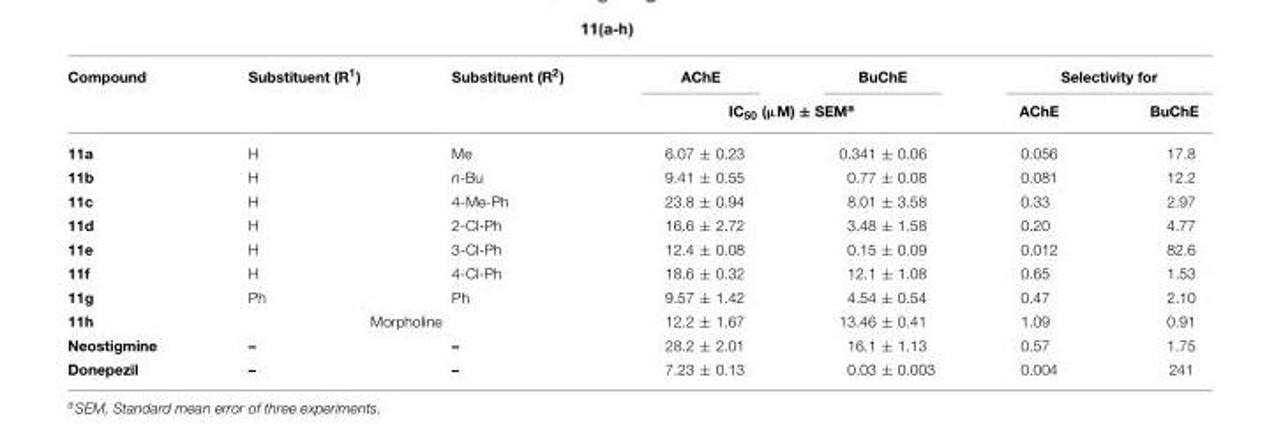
<table><thead><tr><td rowspan="2">Compound</td><td rowspan="2">Substituent (R<sup>1</sup>)</td><td rowspan="2">Substituent (R<sup>2</sup>)</td><td>AChE</td><td>BuChE</td><td colspan="2">Selectivity for</td></tr><tr><td colspan="2">IC<sub>50</sub> (µM) ± SEM<sup>a</sup></td><td>AChE</td><td>BuChE</td></tr></thead><tbody><tr><td>11a</td><td>H</td><td>Me</td><td>6.07 ± 0.23</td><td>0.341 ± 0.06</td><td>0.056</td><td>17.8</td></tr><tr><td>11b</td><td>H</td><td>n-Bu</td><td>9.41 ± 0.55</td><td>0.77 ± 0.08</td><td>0.081</td><td>12.2</td></tr><tr><td>11c</td><td>H</td><td>4-Me-Ph</td><td>23.8 ± 0.94</td><td>8.01 ± 3.58</td><td>0.33</td><td>2.97</td></tr><tr><td>11d</td><td>H</td><td>2-Cl-Ph</td><td>16.6 ± 2.72</td><td>3.48 ± 1.58</td><td>0.20</td><td>4.77</td></tr><tr><td>11e</td><td>H</td><td>3-Cl-Ph</td><td>12.4 ± 0.08</td><td>0.15 ± 0.09</td><td>0.012</td><td>82.6</td></tr><tr><td>11f</td><td>H</td><td>4-Cl-Ph</td><td>18.6 ± 0.32</td><td>12.1 ± 1.08</td><td>0.65</td><td>1.53</td></tr><tr><td>11g</td><td>Ph</td><td>Ph</td><td>9.57 ± 1.42</td><td>4.54 ± 0.54</td><td>0.47</td><td>2.10</td></tr><tr><td>11h</td><td colspan="2">Morpholine</td><td>12.2 ± 1.67</td><td>13.46 ± 0.41</td><td>1.09</td><td>0.91</td></tr><tr><td>Neostigmine</td><td>–</td><td>–</td><td>28.2 ± 2.01</td><td>16.1 ± 1.13</td><td>0.57</td><td>1.75</td></tr><tr><td>Donepezil</td><td>–</td><td>–</td><td>7.23 ± 0.13</td><td>0.03 ± 0.003</td><td>0.004</td><td>241</td></tr></tbody></table>